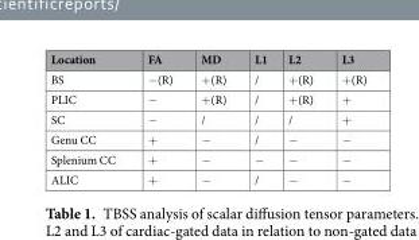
<table><thead><tr><td>Location</td><td>FA</td><td>MD</td><td>L1</td><td>L2</td><td>L3</td></tr></thead><tbody><tr><td>BS</td><td>−(R)</td><td>+(R)</td><td>/</td><td>+(R)</td><td>+(R)</td></tr><tr><td>PLIC</td><td>−</td><td>+(R)</td><td>/</td><td>+(R)</td><td>+</td></tr><tr><td>SC</td><td>−</td><td>/</td><td>/</td><td>/</td><td>+</td></tr><tr><td>Genu CC</td><td>+</td><td>−</td><td>/</td><td>−</td><td>−</td></tr><tr><td>Splenium CC</td><td>+</td><td>−</td><td>−</td><td>−</td><td>−</td></tr><tr><td>ALIC</td><td>+</td><td>−</td><td>/</td><td>−</td><td>−</td></tr></tbody></table>